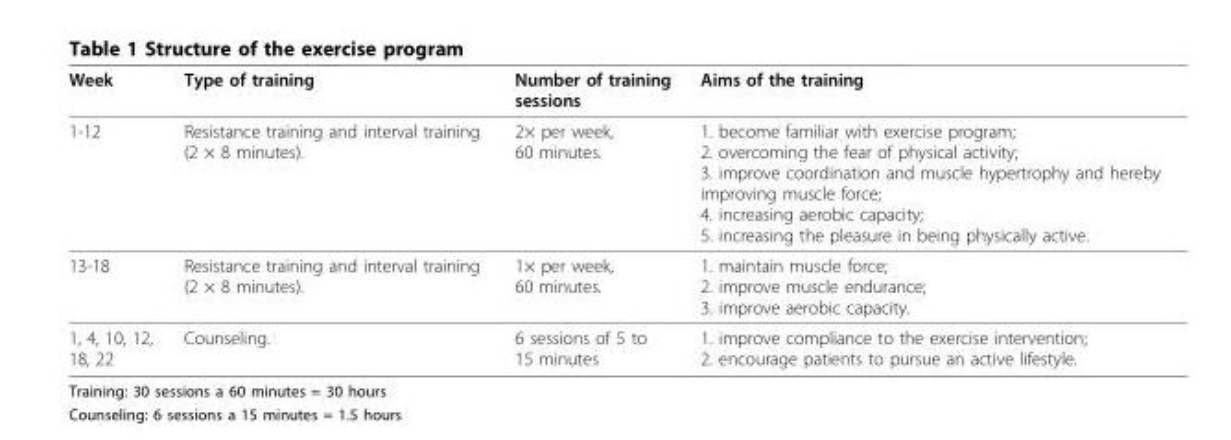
<table><thead><tr><td>Week</td><td>Type of training</td><td>Number of training sessions</td><td>Aims of the training</td></tr></thead><tbody><tr><td>1-12</td><td>Resistance training and interval training (2 × 8 minutes).</td><td>2× per week, 60 minutes.</td><td>1. become familiar with exercise program; 2. overcoming the fear of physical activity; 3. improve coordination and muscle hypertrophy and hereby improving muscle force; 4. increasing aerobic capacity; 5. increasing the pleasure in being physically active.</td></tr><tr><td>13-18</td><td>Resistance training and interval training (2 × 8 minutes).</td><td>1× per week, 60 minutes.</td><td>1. maintain muscle force; 2. improve muscle endurance; 3. improve aerobic capacity.</td></tr><tr><td>1, 4, 10, 12, 18, 22</td><td>Counseling.</td><td>6 sessions of 5 to 15 minutes</td><td>1. improve compliance to the exercise intervention; 2. encourage patients to pursue an active lifestyle.</td></tr></tbody></table>